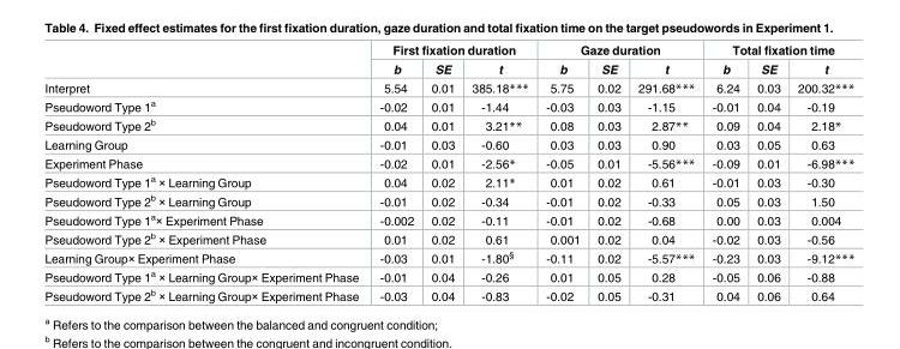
<table><thead><tr><td rowspan="2"></td><td colspan="3">First fixation duration</td><td colspan="3">Gaze duration</td><td colspan="3">Total fixation time</td></tr><tr><td>b</td><td>SE</td><td>t</td><td>b</td><td>SE</td><td>t</td><td>b</td><td>SE</td><td>t</td></tr></thead><tbody><tr><td>Interpret</td><td>5.54</td><td>0.01</td><td>385.18***</td><td>5.75</td><td>0.02</td><td>291.68***</td><td>6.24</td><td>0.03</td><td>200.32***</td></tr><tr><td>Pseudoword Type 1<sup>a</sup></td><td>-0.02</td><td>0.01</td><td>-1.44</td><td>-0.03</td><td>0.03</td><td>-1.15</td><td>-0.01</td><td>0.04</td><td>-0.19</td></tr><tr><td>Pseudoword Type 2<sup>b</sup></td><td>0.04</td><td>0.01</td><td>3.21**</td><td>0.08</td><td>0.03</td><td>2.87**</td><td>0.09</td><td>0.04</td><td>2.18*</td></tr><tr><td>Learning Group</td><td>-0.01</td><td>0.03</td><td>-0.60</td><td>0.03</td><td>0.03</td><td>0.90</td><td>0.03</td><td>0.05</td><td>0.63</td></tr><tr><td>Experiment Phase</td><td>-0.02</td><td>0.01</td><td>-2.56*</td><td>-0.05</td><td>0.01</td><td>-5.56***</td><td>-0.09</td><td>0.01</td><td>-6.98***</td></tr><tr><td>Pseudoword Type 1<sup>a</sup> × Learning Group</td><td>0.04</td><td>0.02</td><td>2.11*</td><td>0.01</td><td>0.02</td><td>0.61</td><td>-0.01</td><td>0.03</td><td>-0.30</td></tr><tr><td>Pseudoword Type 2<sup>b</sup> × Learning Group</td><td>-0.01</td><td>0.02</td><td>-0.34</td><td>-0.01</td><td>0.02</td><td>-0.33</td><td>0.05</td><td>0.03</td><td>1.50</td></tr><tr><td>Pseudoword Type 1<sup>a</sup>× Experiment Phase</td><td>-0.002</td><td>0.02</td><td>-0.11</td><td>-0.01</td><td>0.02</td><td>-0.68</td><td>0.00</td><td>0.03</td><td>0.004</td></tr><tr><td>Pseudoword Type 2<sup>b</sup> × Experiment Phase</td><td>0.01</td><td>0.02</td><td>0.61</td><td>0.001</td><td>0.02</td><td>0.04</td><td>-0.02</td><td>0.03</td><td>-0.56</td></tr><tr><td>Learning Group× Experiment Phase</td><td>-0.03</td><td>0.01</td><td>-1.80<sup>§</sup></td><td>-0.11</td><td>0.02</td><td>-5.57***</td><td>-0.23</td><td>0.03</td><td>-9.12***</td></tr><tr><td>Pseudoword Type 1<sup>a</sup> × Learning Group× Experiment Phase</td><td>-0.01</td><td>0.04</td><td>-0.26</td><td>0.01</td><td>0.05</td><td>0.28</td><td>-0.05</td><td>0.06</td><td>-0.88</td></tr><tr><td>Pseudoword Type 2<sup>b</sup> × Learning Group× Experiment Phase</td><td>-0.03</td><td>0.04</td><td>-0.83</td><td>-0.02</td><td>0.05</td><td>-0.31</td><td>0.04</td><td>0.06</td><td>0.64</td></tr></tbody></table>